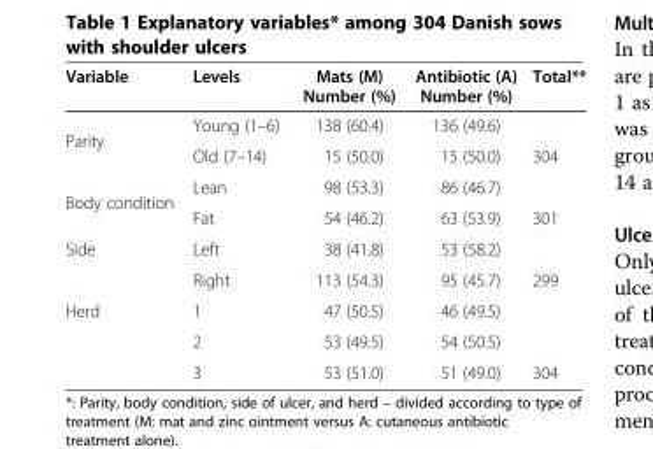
<table><thead><tr><td>Variable</td><td>Levels</td><td>Mats (M) Number (%)</td><td>Antibiotic (A) Number (%)</td><td>Total**</td></tr></thead><tbody><tr><td rowspan="2">Parity</td><td>Young (1–6)</td><td>138 (60.4)</td><td>136 (49.6)</td><td></td></tr><tr><td>Old (7–14)</td><td>15 (50.0)</td><td>15 (50.0)</td><td>304</td></tr><tr><td rowspan="2">Body condition</td><td>Lean</td><td>98 (53.3)</td><td>86 (46.7)</td><td></td></tr><tr><td>Fat</td><td>54 (46.2)</td><td>63 (53.9)</td><td>301</td></tr><tr><td rowspan="2">Side</td><td>Left</td><td>38 (41.8)</td><td>53 (58.2)</td><td></td></tr><tr><td>Right</td><td>113 (54.3)</td><td>95 (45.7)</td><td>299</td></tr><tr><td rowspan="3">Herd</td><td>1</td><td>47 (50.5)</td><td>46 (49.5)</td><td rowspan="2"></td></tr><tr><td>2</td><td>53 (49.5)</td><td>54 (50.5)</td></tr><tr><td>3</td><td>53 (51.0)</td><td>51 (49.0)</td><td>304</td></tr></tbody></table>